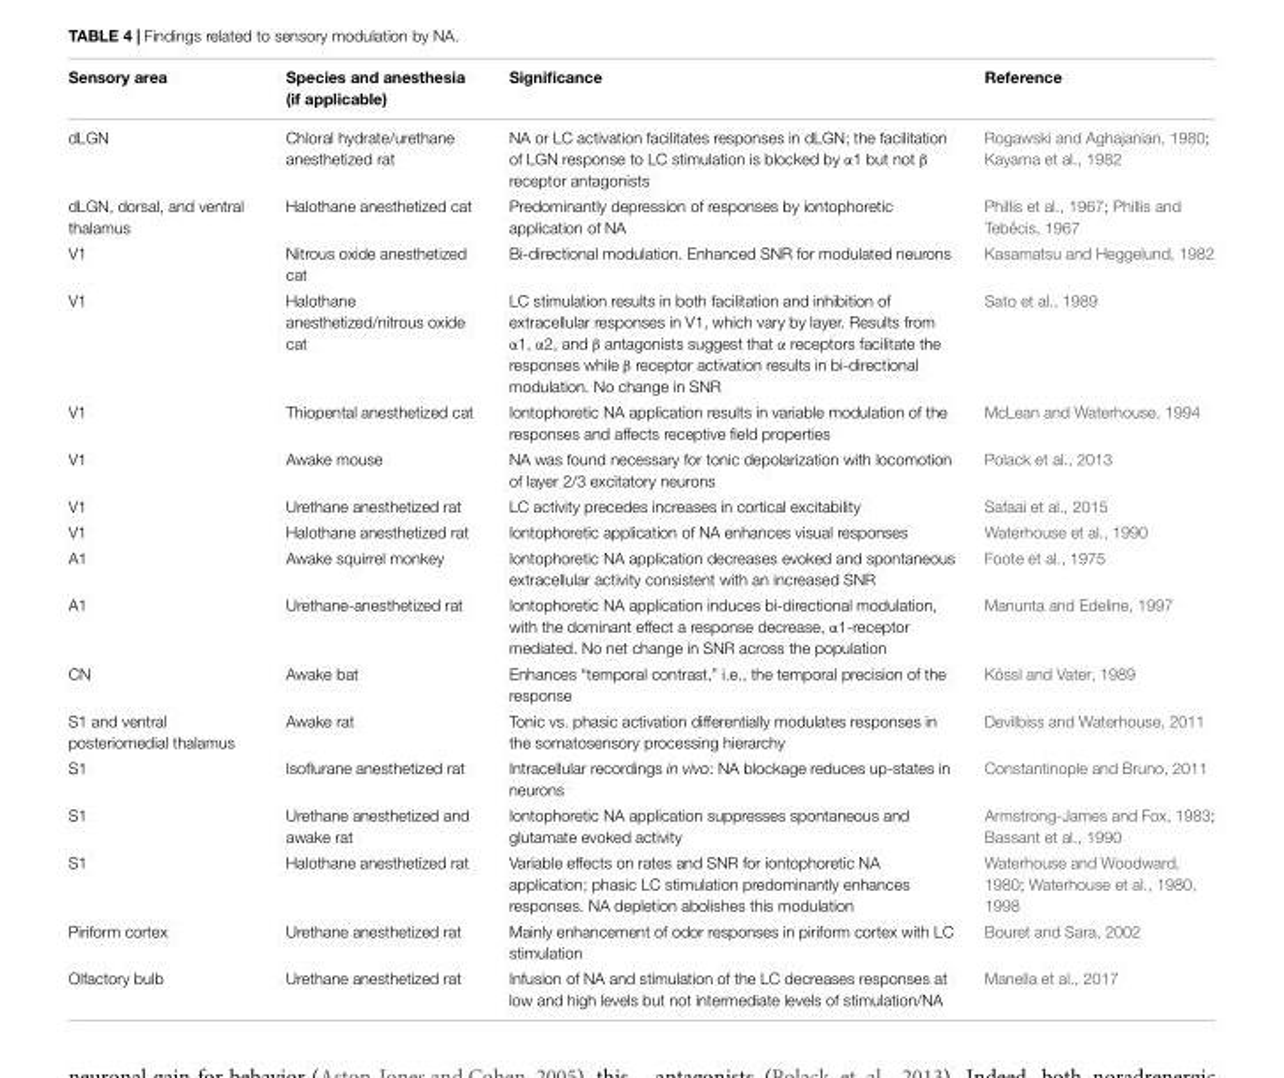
<table><thead><tr><td>Sensory area</td><td>Species and anesthesia (if applicable)</td><td>Significance</td><td>Reference</td></tr></thead><tbody><tr><td>dLGN</td><td>Chloral hydrate/urethane anesthetized rat</td><td>NA or LC activation facilitates responses in dLGN; the facilitation of LGN response to LC stimulation is blocked by α1 but not β receptor antagonists</td><td>Rogawski and Aghajanian, 1980; Kayama et al., 1982</td></tr><tr><td>dLGN, dorsal, and ventral thalamus</td><td>Halothane anesthetized cat</td><td>Predominantly depression of responses by iontophoretic application of NA</td><td>Phillis et al., 1967; Phillis and Teb ˇecis, 1967</td></tr><tr><td>V1</td><td>Nitrous oxide anesthetized cat</td><td>Bi-directional modulation. Enhanced SNR for modulated neurons</td><td>Kasamatsu and Heggelund, 1982</td></tr><tr><td>V1</td><td>Halothane anesthetized/nitrous oxide cat</td><td>LC stimulation results in both facilitation and inhibition of extracellular responses in V1, which vary by layer. Results from α1, α2, and β antagonists suggest that α receptors facilitate the responses while β receptor activation results in bi-directional modulation. No change in SNR</td><td>Sato et al., 1989</td></tr><tr><td>V1</td><td>Thiopental anesthetized cat</td><td>Iontophoretic NA application results in variable modulation of the responses and affects receptive field properties</td><td>McLean and Waterhouse, 1994</td></tr><tr><td>V1</td><td>Awake mouse</td><td>NA was found necessary for tonic depolarization with locomotion of layer 2/3 excitatory neurons</td><td>Polack et al., 2013</td></tr><tr><td>V1</td><td>Urethane anesthetized rat</td><td>LC activity precedes increases in cortical excitability</td><td>Safaai et al., 2015</td></tr><tr><td>V1</td><td>Halothane anesthetized rat</td><td>Iontophoretic application of NA enhances visual responses</td><td>Waterhouse et al., 1990</td></tr><tr><td>A1</td><td>Awake squirrel monkey</td><td>Iontophoretic NA application decreases evoked and spontaneous extracellular activity consistent with an increased SNR</td><td>Foote et al., 1975</td></tr><tr><td>A1</td><td>Urethane-anesthetized rat</td><td>Iontophoretic NA application induces bi-directional modulation, with the dominant effect a response decrease, α1-receptor mediated. No net change in SNR across the population</td><td>Manunta and Edeline, 1997</td></tr><tr><td>CN</td><td>Awake bat</td><td>Enhances “temporal contrast,” i.e., the temporal precision of the response</td><td>Kössl and Vater, 1989</td></tr><tr><td>S1 and ventral posteriomedial thalamus</td><td>Awake rat</td><td>Tonic vs. phasic activation differentially modulates responses in the somatosensory processing hierarchy</td><td>Devilbiss and Waterhouse, 2011</td></tr><tr><td>S1</td><td>Isoflurane anesthetized rat</td><td>Intracellular recordings in vivo: NA blockage reduces up-states in neurons</td><td>Constantinople and Bruno, 2011</td></tr><tr><td>S1</td><td>Urethane anesthetized and awake rat</td><td>Iontophoretic NA application suppresses spontaneous and glutamate evoked activity</td><td>Armstrong-James and Fox, 1983; Bassant et al., 1990</td></tr><tr><td>S1</td><td>Halothane anesthetized rat</td><td>Variable effects on rates and SNR for iontophoretic NA application; phasic LC stimulation predominantly enhances responses. NA depletion abolishes this modulation</td><td>Waterhouse and Woodward, 1980; Waterhouse et al., 1980, 1998</td></tr><tr><td>Piriform cortex</td><td>Urethane anesthetized rat</td><td>Mainly enhancement of odor responses in piriform cortex with LC stimulation</td><td>Bouret and Sara, 2002</td></tr><tr><td>Olfactory bulb</td><td>Urethane anesthetized rat</td><td>Infusion of NA and stimulation of the LC decreases responses at low and high levels but not intermediate levels of stimulation/NA</td><td>Manella et al., 2017</td></tr></tbody></table>